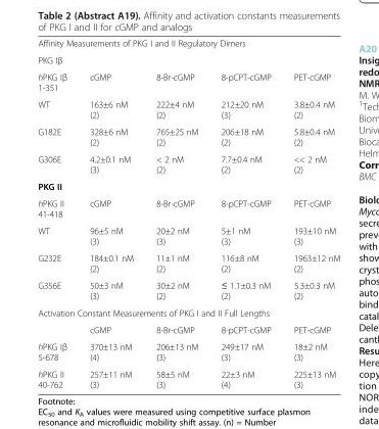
<table><tbody><tr><td colspan="5">Affinity Measurements of PKG I and II Regulatory Dimers</td></tr><tr><td colspan="5">PKG Iβ</td></tr><tr><td>hPKG Iβ 1-351</td><td>cGMP</td><td>8-Br-cGMP</td><td>8-pCPT-cGMP</td><td>PET-cGMP</td></tr><tr><td>WT</td><td>163±6 nM (2)</td><td>222±4 nM (2)</td><td>212±20 nM (3)</td><td>3.8±0.4 nM (2)</td></tr><tr><td>G182E</td><td>328±6 nM (2)</td><td>765±25 nM (2)</td><td>206±18 nM (2)</td><td>5.8±0.4 nM (2)</td></tr><tr><td>G306E</td><td>4.2±0.1 nM (3)</td><td>&lt; 2 nM (2)</td><td>7.7±0.4 nM (2)</td><td>&lt;&lt; 2 nM (2)</td></tr><tr><td colspan="5">PKG II</td></tr><tr><td>hPKG II 41-418</td><td>cGMP</td><td>8-Br-cGMP</td><td>8-pCPT-cGMP</td><td>PET-cGMP</td></tr><tr><td>WT</td><td>96±5 nM (3)</td><td>20±2 nM (3)</td><td>5±1 nM (3)</td><td>193±10 nM (3)</td></tr><tr><td>G232E</td><td>184±0.1 nM (2)</td><td>11±1 nM (2)</td><td>116±8 nM (2)</td><td>1963±12 nM (2)</td></tr><tr><td>G356E</td><td>50±3 nM (3)</td><td>30±2 nM (2)</td><td>≤ 1.1±0.3 nM (2)</td><td>5.3±0.3 nM (2)</td></tr><tr><td colspan="5">Activation Constant Measurements of PKG I and II Full Lengths</td></tr><tr><td></td><td>cGMP</td><td>8-Br-cGMP</td><td>8-pCPT-cGMP</td><td>PET-cGMP</td></tr><tr><td>hPKG Iβ 5-678</td><td>370±13 nM (4)</td><td>206±13 nM (3)</td><td>249±17 nM (3)</td><td>18±2 nM (3)</td></tr><tr><td>hPKG II 40-762</td><td>257±11 nM (3)</td><td>58±5 nM (3)</td><td>22±3 nM (4)</td><td>225±13 nM (3)</td></tr></tbody></table>